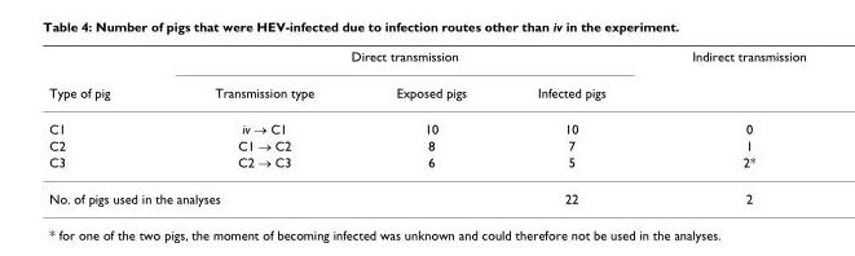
<table><thead><tr><td rowspan="2">Type of pig</td><td colspan="3">Direct transmission</td><td rowspan="2">Indirect transmission</td></tr><tr><td>Transmission type</td><td>Exposed pigs</td><td>Infected pigs</td></tr></thead><tbody><tr><td>C1</td><td>iv → C1</td><td>10</td><td>10</td><td>0</td></tr><tr><td>C2</td><td>C1 → C2</td><td>8</td><td>7</td><td>1</td></tr><tr><td>C3</td><td>C2 → C3</td><td>6</td><td>5</td><td>2*</td></tr><tr><td colspan="2">No. of pigs used in the analyses</td><td></td><td>22</td><td>2</td></tr></tbody></table>